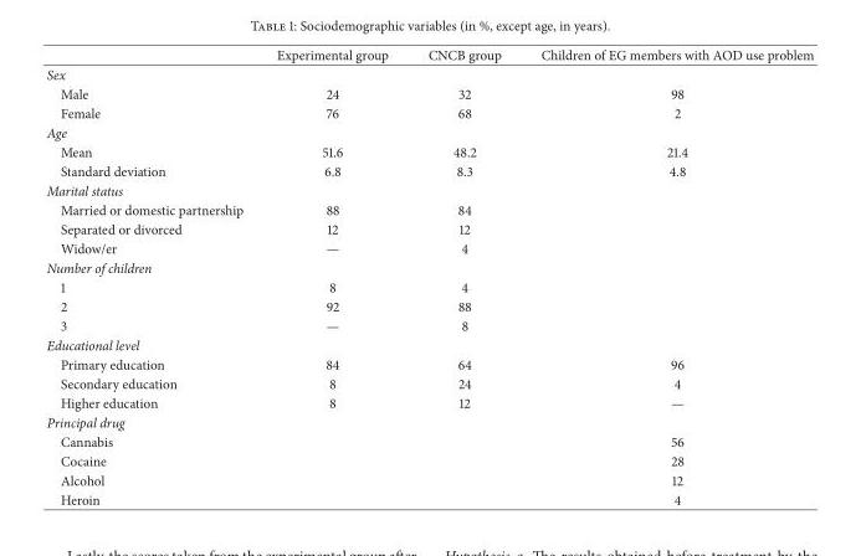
<table><thead><tr><td></td><td>Experimental group</td><td>CNCB group</td><td>Children of EG members with AOD use problem</td></tr></thead><tbody><tr><td colspan="4">Sex</td></tr><tr><td>Male</td><td>24</td><td>32</td><td>98</td></tr><tr><td>Female</td><td>76</td><td>68</td><td>2</td></tr><tr><td colspan="4">Age</td></tr><tr><td>Mean</td><td>51.6</td><td>48.2</td><td>21.4</td></tr><tr><td>Standard deviation</td><td>6.8</td><td>8.3</td><td>4.8</td></tr><tr><td colspan="4">Marital status</td></tr><tr><td>Married or domestic partnership</td><td>88</td><td>84</td><td></td></tr><tr><td>Separated or divorced</td><td>12</td><td>12</td><td></td></tr><tr><td>Widow/er</td><td>—</td><td>4</td><td></td></tr><tr><td colspan="4">Number of children</td></tr><tr><td>1</td><td>8</td><td>4</td><td></td></tr><tr><td>2</td><td>92</td><td>88</td><td></td></tr><tr><td>3</td><td>—</td><td>8</td><td></td></tr><tr><td colspan="4">Educational level</td></tr><tr><td>Primary education</td><td>84</td><td>64</td><td>96</td></tr><tr><td>Secondary education</td><td>8</td><td>24</td><td>4</td></tr><tr><td>Higher education</td><td>8</td><td>12</td><td>—</td></tr><tr><td colspan="4">Principal drug</td></tr><tr><td>Cannabis</td><td></td><td></td><td>56</td></tr><tr><td>Cocaine</td><td></td><td></td><td>28</td></tr><tr><td>Alcohol</td><td></td><td></td><td>12</td></tr><tr><td>Heroin</td><td></td><td></td><td>4</td></tr></tbody></table>